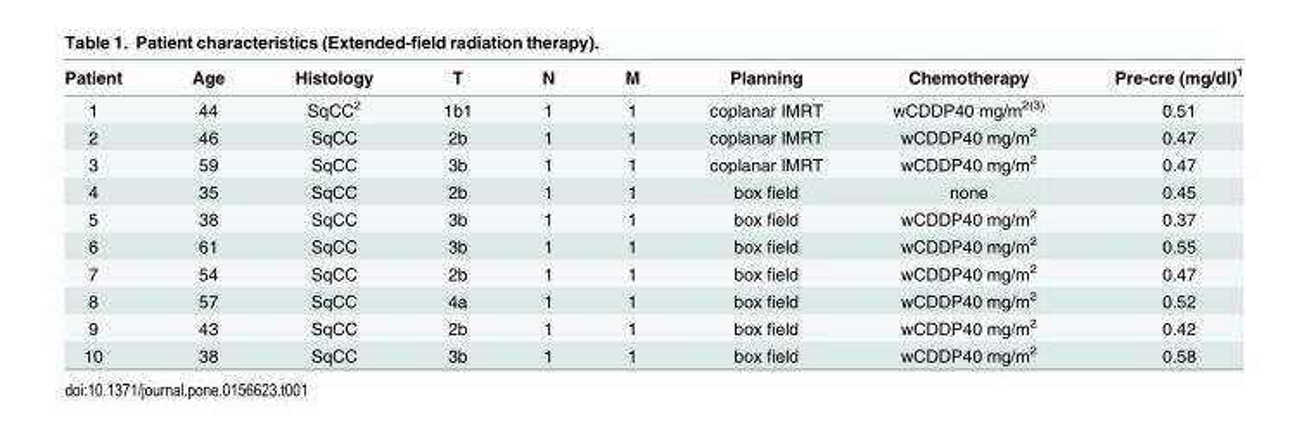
<table><thead><tr><td>Patient</td><td>Age</td><td>Histology</td><td>T</td><td>N</td><td>M</td><td>Planning</td><td>Chemotherapy</td><td>Pre-cre (mg/dl)<sup>1</sup></td></tr></thead><tbody><tr><td>1</td><td>44</td><td>SqCC<sup>2</sup></td><td>1b1</td><td>1</td><td>1</td><td>coplanar IMRT</td><td>wCDDP40 mg/m<sup>2(3)</sup></td><td>0.51</td></tr><tr><td>2</td><td>46</td><td>SqCC</td><td>2b</td><td>1</td><td>1</td><td>coplanar IMRT</td><td>wCDDP40 mg/m<sup>2</sup></td><td>0.47</td></tr><tr><td>3</td><td>59</td><td>SqCC</td><td>3b</td><td>1</td><td>1</td><td>coplanar IMRT</td><td>wCDDP40 mg/m<sup>2</sup></td><td>0.47</td></tr><tr><td>4</td><td>35</td><td>SqCC</td><td>2b</td><td>1</td><td>1</td><td>box field</td><td>none</td><td>0.45</td></tr><tr><td>5</td><td>38</td><td>SqCC</td><td>3b</td><td>1</td><td>1</td><td>box field</td><td>wCDDP40 mg/m<sup>2</sup></td><td>0.37</td></tr><tr><td>6</td><td>61</td><td>SqCC</td><td>3b</td><td>1</td><td>1</td><td>box field</td><td>wCDDP40 mg/m<sup>2</sup></td><td>0.55</td></tr><tr><td>7</td><td>54</td><td>SqCC</td><td>2b</td><td>1</td><td>1</td><td>box field</td><td>wCDDP40 mg/m<sup>2</sup></td><td>0.47</td></tr><tr><td>8</td><td>57</td><td>SqCC</td><td>4a</td><td>1</td><td>1</td><td>box field</td><td>wCDDP40 mg/m<sup>2</sup></td><td>0.52</td></tr><tr><td>9</td><td>43</td><td>SqCC</td><td>2b</td><td>1</td><td>1</td><td>box field</td><td>wCDDP40 mg/m<sup>2</sup></td><td>0.42</td></tr><tr><td>10</td><td>38</td><td>SqCC</td><td>3b</td><td>1</td><td>1</td><td>box field</td><td>wCDDP40 mg/m<sup>2</sup></td><td>0.58</td></tr></tbody></table>